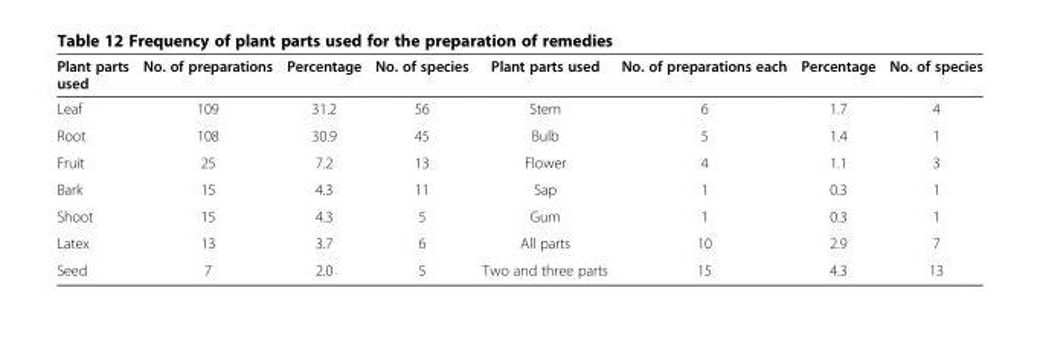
<table><thead><tr><td>Plant parts used</td><td>No. of preparations</td><td>Percentage</td><td>No. of species</td><td>Plant parts used</td><td>No. of preparations each</td><td>Percentage</td><td>No. of species</td></tr></thead><tbody><tr><td>Leaf</td><td>109</td><td>31.2</td><td>56</td><td>Stem</td><td>6</td><td>1.7</td><td>4</td></tr><tr><td>Root</td><td>108</td><td>30.9</td><td>45</td><td>Bulb</td><td>5</td><td>1.4</td><td>1</td></tr><tr><td>Fruit</td><td>25</td><td>7.2</td><td>13</td><td>Flower</td><td>4</td><td>1.1</td><td>3</td></tr><tr><td>Bark</td><td>15</td><td>4.3</td><td>11</td><td>Sap</td><td>1</td><td>0.3</td><td>1</td></tr><tr><td>Shoot</td><td>15</td><td>4.3</td><td>5</td><td>Gum</td><td>1</td><td>0.3</td><td>1</td></tr><tr><td>Latex</td><td>13</td><td>3.7</td><td>6</td><td>All parts</td><td>10</td><td>2.9</td><td>7</td></tr><tr><td>Seed</td><td>7</td><td>2.0</td><td>5</td><td>Two and three parts</td><td>15</td><td>4.3</td><td>13</td></tr></tbody></table>